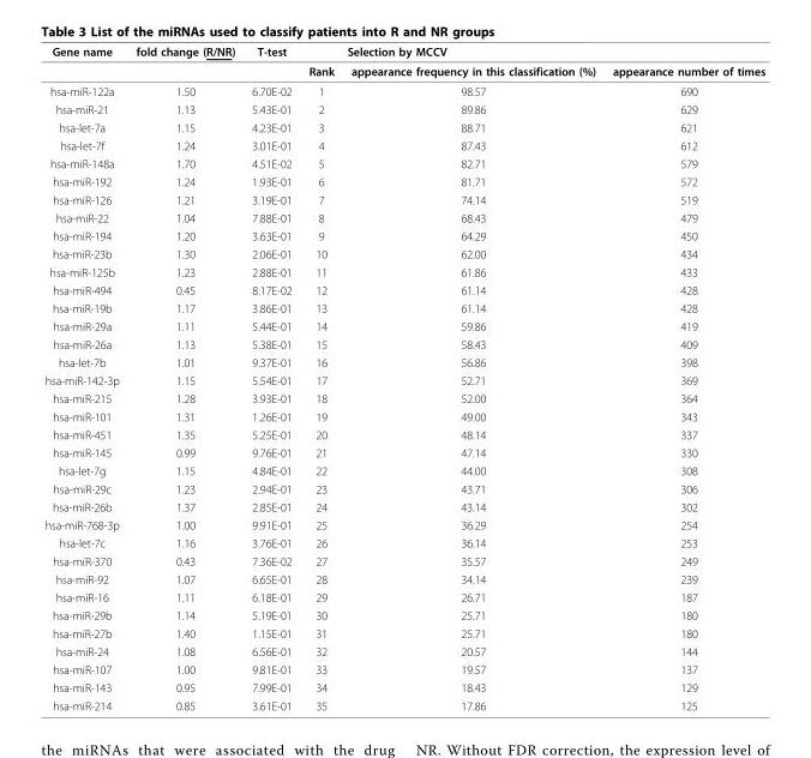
<table><thead><tr><td rowspan="2">Gene name</td><td rowspan="2">fold change (R/NR)</td><td rowspan="2">T-test</td><td rowspan="2">Rank</td><td colspan="2">Selection by MCCV</td></tr><tr><td>appearance frequency in this classification (%)</td><td>appearance number of times</td></tr></thead><tbody><tr><td>hsa-miR-122a</td><td>1.50</td><td>6.70E-02</td><td>1</td><td>98.57</td><td>690</td></tr><tr><td>hsa-miR-21</td><td>1.13</td><td>5.43E-01</td><td>2</td><td>89.86</td><td>629</td></tr><tr><td>hsa-let-7a</td><td>1.15</td><td>4.23E-01</td><td>3</td><td>88.71</td><td>621</td></tr><tr><td>hsa-let-7f</td><td>1.24</td><td>3.01E-01</td><td>4</td><td>87.43</td><td>612</td></tr><tr><td>hsa-miR-148a</td><td>1.70</td><td>4.51E-02</td><td>5</td><td>82.71</td><td>579</td></tr><tr><td>hsa-miR-192</td><td>1.24</td><td>1.93E-01</td><td>6</td><td>81.71</td><td>572</td></tr><tr><td>hsa-miR-126</td><td>1.21</td><td>3.19E-01</td><td>7</td><td>74.14</td><td>519</td></tr><tr><td>hsa-miR-22</td><td>1.04</td><td>7.88E-01</td><td>8</td><td>68.43</td><td>479</td></tr><tr><td>hsa-miR-194</td><td>1.20</td><td>3.63E-01</td><td>9</td><td>64.29</td><td>450</td></tr><tr><td>hsa-miR-23b</td><td>1.30</td><td>2.06E-01</td><td>10</td><td>62.00</td><td>434</td></tr><tr><td>hsa-miR-125b</td><td>1.23</td><td>2.88E-01</td><td>11</td><td>61.86</td><td>433</td></tr><tr><td>hsa-miR-494</td><td>0.45</td><td>8.17E-02</td><td>12</td><td>61.14</td><td>428</td></tr><tr><td>hsa-miR-19b</td><td>1.17</td><td>3.86E-01</td><td>13</td><td>61.14</td><td>428</td></tr><tr><td>hsa-miR-29a</td><td>1.11</td><td>5.44E-01</td><td>14</td><td>59.86</td><td>419</td></tr><tr><td>hsa-miR-26a</td><td>1.13</td><td>5.38E-01</td><td>15</td><td>58.43</td><td>409</td></tr><tr><td>hsa-let-7b</td><td>1.01</td><td>9.37E-01</td><td>16</td><td>56.86</td><td>398</td></tr><tr><td>hsa-miR-142-3p</td><td>1.15</td><td>5.54E-01</td><td>17</td><td>52.71</td><td>369</td></tr><tr><td>hsa-miR-215</td><td>1.28</td><td>3.93E-01</td><td>18</td><td>52.00</td><td>364</td></tr><tr><td>hsa-miR-101</td><td>1.31</td><td>1.26E-01</td><td>19</td><td>49.00</td><td>343</td></tr><tr><td>hsa-miR-451</td><td>1.35</td><td>5.25E-01</td><td>20</td><td>48.14</td><td>337</td></tr><tr><td>hsa-miR-145</td><td>0.99</td><td>9.76E-01</td><td>21</td><td>47.14</td><td>330</td></tr><tr><td>hsa-let-7g</td><td>1.15</td><td>4.84E-01</td><td>22</td><td>44.00</td><td>308</td></tr><tr><td>hsa-miR-29c</td><td>1.23</td><td>2.94E-01</td><td>23</td><td>43.71</td><td>306</td></tr><tr><td>hsa-miR-26b</td><td>1.37</td><td>2.85E-01</td><td>24</td><td>43.14</td><td>302</td></tr><tr><td>hsa-miR-768-3p</td><td>1.00</td><td>9.91E-01</td><td>25</td><td>36.29</td><td>254</td></tr><tr><td>hsa-let-7c</td><td>1.16</td><td>3.76E-01</td><td>26</td><td>36.14</td><td>253</td></tr><tr><td>hsa-miR-370</td><td>0.43</td><td>7.36E-02</td><td>27</td><td>35.57</td><td>249</td></tr><tr><td>hsa-miR-92</td><td>1.07</td><td>6.65E-01</td><td>28</td><td>34.14</td><td>239</td></tr><tr><td>hsa-miR-16</td><td>1.11</td><td>6.18E-01</td><td>29</td><td>26.71</td><td>187</td></tr><tr><td>hsa-miR-29b</td><td>1.14</td><td>5.19E-01</td><td>30</td><td>25.71</td><td>180</td></tr><tr><td>hsa-miR-27b</td><td>1.40</td><td>1.15E-01</td><td>31</td><td>25.71</td><td>180</td></tr><tr><td>hsa-miR-24</td><td>1.08</td><td>6.56E-01</td><td>32</td><td>20.57</td><td>144</td></tr><tr><td>hsa-miR-107</td><td>1.00</td><td>9.81E-01</td><td>33</td><td>19.57</td><td>137</td></tr><tr><td>hsa-miR-143</td><td>0.95</td><td>7.99E-01</td><td>34</td><td>18.43</td><td>129</td></tr><tr><td>hsa-miR-214</td><td>0.85</td><td>3.61E-01</td><td>35</td><td>17.86</td><td>125</td></tr></tbody></table>